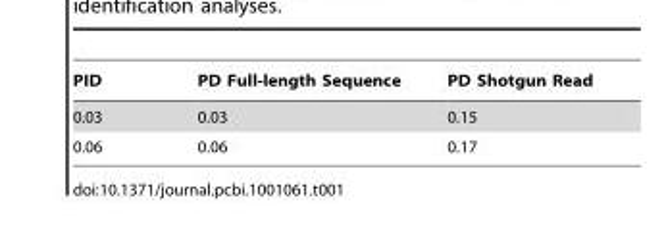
<table><thead><tr><td>PID</td><td>PD Full-length Sequence</td><td>PD Shotgun Read</td></tr></thead><tbody><tr><td>0.03</td><td>0.03</td><td>0.15</td></tr><tr><td>0.06</td><td>0.06</td><td>0.17</td></tr></tbody></table>